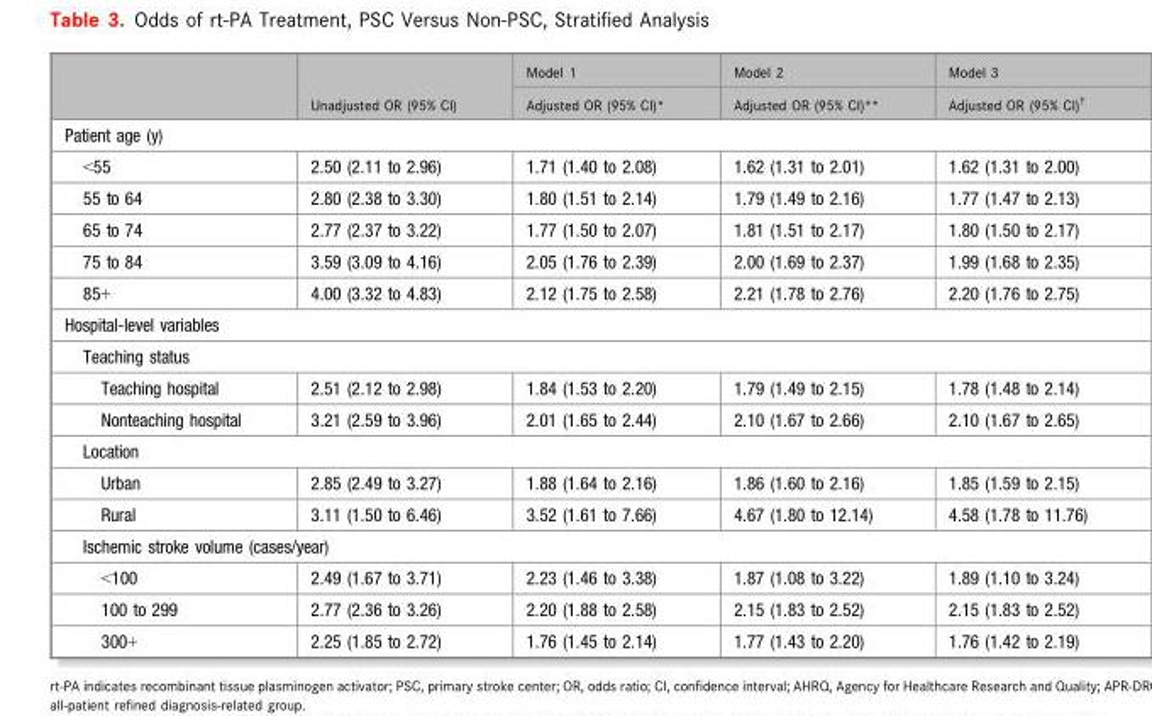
<table><thead><tr><td rowspan="2"></td><td rowspan="2">Unadjusted OR (95% CI)</td><td rowspan="2">Model 1 Adjusted OR (95% CI)*</td><td rowspan="2">Model 2 Adjusted OR (95% CI)**</td><td rowspan="2">Model 3 Adjusted OR (95% CI)†</td></tr><tr></tr></thead><tbody><tr><td colspan="5">Patient age (y)</td></tr><tr><td>&lt;55</td><td>2.50 (2.11 to 2.96)</td><td>1.71 (1.40 to 2.08)</td><td>1.62 (1.31 to 2.01)</td><td>1.62 (1.31 to 2.00)</td></tr><tr><td>55 to 64</td><td>2.80 (2.38 to 3.30)</td><td>1.80 (1.51 to 2.14)</td><td>1.79 (1.49 to 2.16)</td><td>1.77 (1.47 to 2.13)</td></tr><tr><td>65 to 74</td><td>2.77 (2.37 to 3.22)</td><td>1.77 (1.50 to 2.07)</td><td>1.81 (1.51 to 2.17)</td><td>1.80 (1.50 to 2.17)</td></tr><tr><td>75 to 84</td><td>3.59 (3.09 to 4.16)</td><td>2.05 (1.76 to 2.39)</td><td>2.00 (1.69 to 2.37)</td><td>1.99 (1.68 to 2.35)</td></tr><tr><td>85+</td><td>4.00 (3.32 to 4.83)</td><td>2.12 (1.75 to 2.58)</td><td>2.21 (1.78 to 2.76)</td><td>2.20 (1.76 to 2.75)</td></tr><tr><td colspan="5">Hospital-level variables</td></tr><tr><td colspan="5">Teaching status</td></tr><tr><td>Teaching hospital</td><td>2.51 (2.12 to 2.98)</td><td>1.84 (1.53 to 2.20)</td><td>1.79 (1.49 to 2.15)</td><td>1.78 (1.48 to 2.14)</td></tr><tr><td>Nonteaching hospital</td><td>3.21 (2.59 to 3.96)</td><td>2.01 (1.65 to 2.44)</td><td>2.10 (1.67 to 2.66)</td><td>2.10 (1.67 to 2.65)</td></tr><tr><td colspan="5">Location</td></tr><tr><td>Urban</td><td>2.85 (2.49 to 3.27)</td><td>1.88 (1.64 to 2.16)</td><td>1.86 (1.60 to 2.16)</td><td>1.85 (1.59 to 2.15)</td></tr><tr><td>Rural</td><td>3.11 (1.50 to 6.46)</td><td>3.52 (1.61 to 7.66)</td><td>4.67 (1.80 to 12.14)</td><td>4.58 (1.78 to 11.76)</td></tr><tr><td colspan="5">Ischemic stroke volume (cases/year)</td></tr><tr><td>&lt;100</td><td>2.49 (1.67 to 3.71)</td><td>2.23 (1.46 to 3.38)</td><td>1.87 (1.08 to 3.22)</td><td>1.89 (1.10 to 3.24)</td></tr><tr><td>100 to 299</td><td>2.77 (2.36 to 3.26)</td><td>2.20 (1.88 to 2.58)</td><td>2.15 (1.83 to 2.52)</td><td>2.15 (1.83 to 2.52)</td></tr><tr><td>300+</td><td>2.25 (1.85 to 2.72)</td><td>1.76 (1.45 to 2.14)</td><td>1.77 (1.43 to 2.20)</td><td>1.76 (1.42 to 2.19)</td></tr></tbody></table>